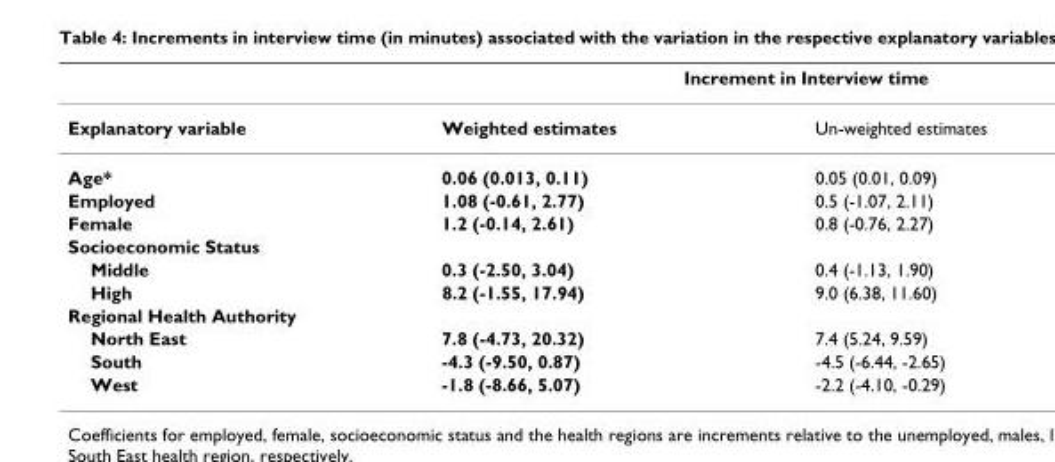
<table><thead><tr><td rowspan="2">Explanatory variable</td><td colspan="2">Increment in Interview time</td></tr><tr><td>Weighted estimates</td><td>Un-weighted estimates</td></tr></thead><tbody><tr><td>Age*</td><td>0.06 (0.013, 0.11)</td><td>0.05 (0.01, 0.09)</td></tr><tr><td>Employed</td><td>1.08 (-0.61, 2.77)</td><td>0.5 (-1.07, 2.11)</td></tr><tr><td>Female</td><td>1.2 (-0.14, 2.61)</td><td>0.8 (-0.76, 2.27)</td></tr><tr><td colspan="3">Socioeconomic Status</td></tr><tr><td>Middle</td><td>0.3 (-2.50, 3.04)</td><td>0.4 (-1.13, 1.90)</td></tr><tr><td>High</td><td>8.2 (-1.55, 17.94)</td><td>9.0 (6.38, 11.60)</td></tr><tr><td colspan="3">Regional Health Authority</td></tr><tr><td>North East</td><td>7.8 (-4.73, 20.32)</td><td>7.4 (5.24, 9.59)</td></tr><tr><td>South</td><td>-4.3 (-9.50, 0.87)</td><td>-4.5 (-6.44, -2.65)</td></tr><tr><td>West</td><td>-1.8 (-8.66, 5.07)</td><td>-2.2 (-4.10, -0.29)</td></tr></tbody></table>